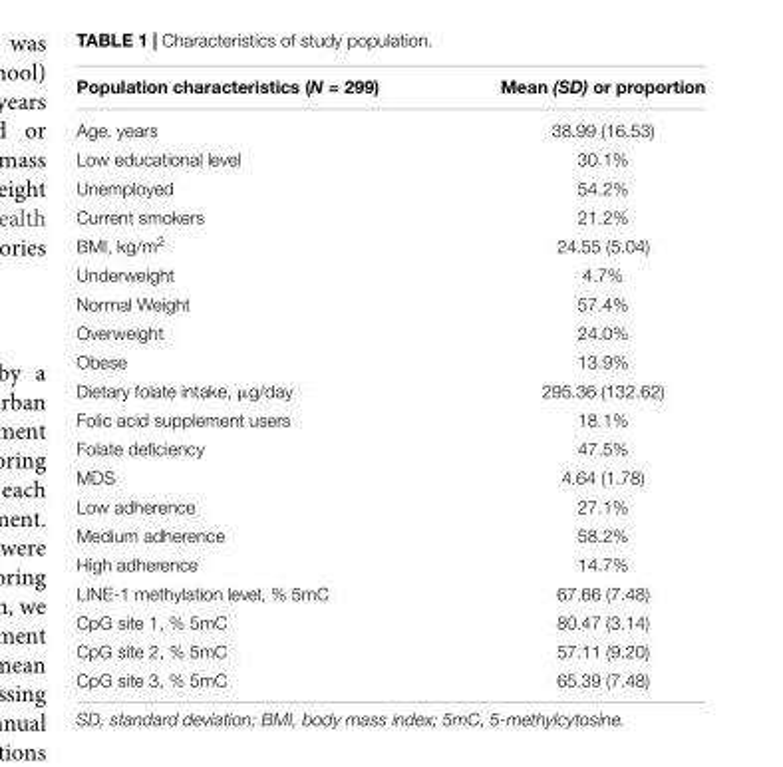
<table><thead><tr><td>Population characteristics (N = 299)</td><td>Mean (SD) or proportion</td></tr></thead><tbody><tr><td>Age, years</td><td>38.99 (16.53)</td></tr><tr><td>Low educational level</td><td>30.1%</td></tr><tr><td>Unemployed</td><td>54.2%</td></tr><tr><td>Current smokers</td><td>21.2%</td></tr><tr><td>BMI, kg/m<sup>2</sup></td><td>24.55 (5.04)</td></tr><tr><td>Underweight</td><td>4.7%</td></tr><tr><td>Normal Weight</td><td>57.4%</td></tr><tr><td>Overweight</td><td>24.0%</td></tr><tr><td>Obese</td><td>13.9%</td></tr><tr><td>Dietary folate intake, µg/day</td><td>295.36 (132.62)</td></tr><tr><td>Folic acid supplement users</td><td>18.1%</td></tr><tr><td>Folate deficiency</td><td>47.5%</td></tr><tr><td>MDS</td><td>4.64 (1.78)</td></tr><tr><td>Low adherence</td><td>27.1%</td></tr><tr><td>Medium adherence</td><td>58.2%</td></tr><tr><td>High adherence</td><td>14.7%</td></tr><tr><td>LINE-1 methylation level, % 5mC</td><td>67.66 (7.48)</td></tr><tr><td>CpG site 1, % 5mC</td><td>80.47 (3.14)</td></tr><tr><td>CpG site 2, % 5mC</td><td>57.11 (9.20)</td></tr><tr><td>CpG site 3, % 5mC</td><td>65.39 (7.48)</td></tr></tbody></table>